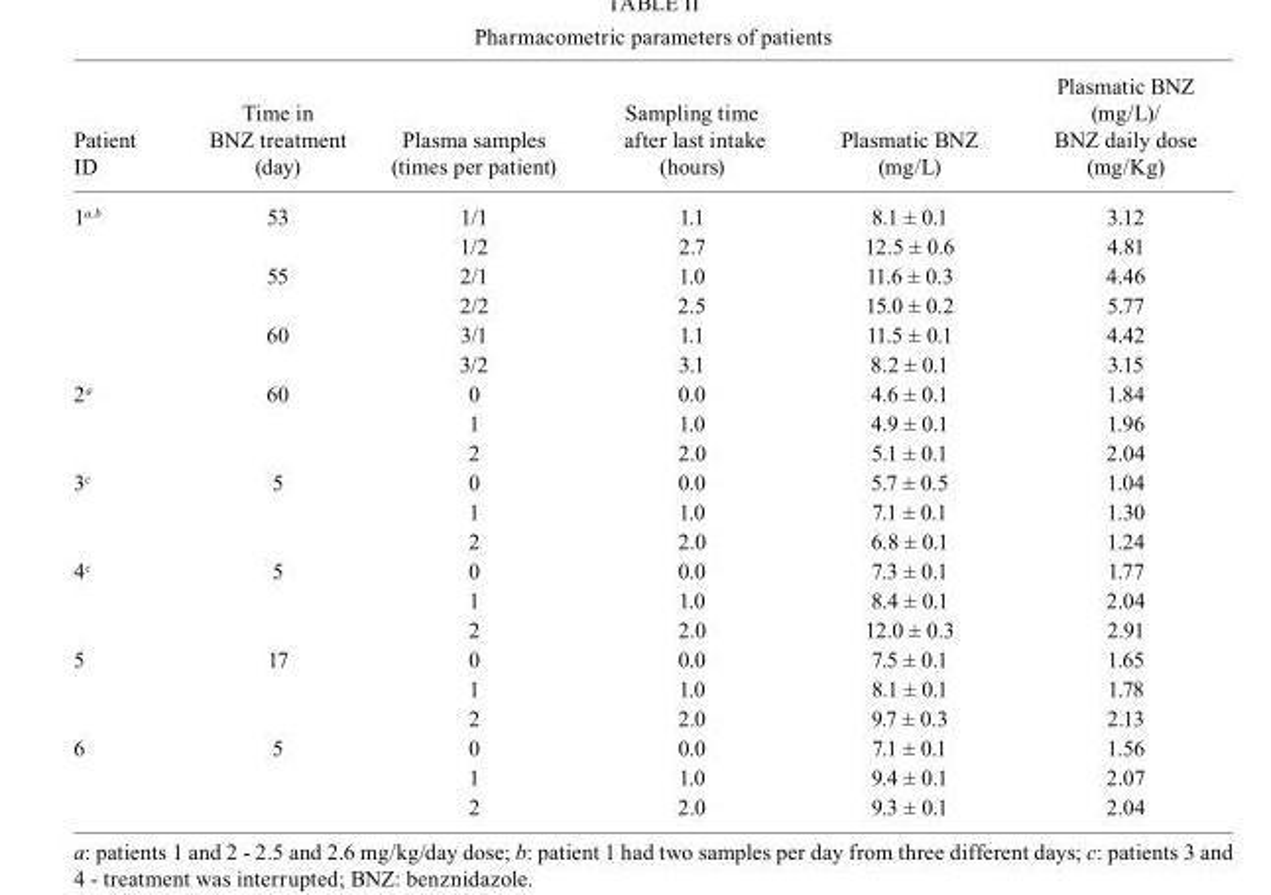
<table><thead><tr><td>Patient ID</td><td>Time in BNZ treatment (day)</td><td>Plasma samples (times per patient)</td><td>Sampling time after last intake (hours)</td><td>Plasmatic BNZ (mg/L)</td><td>Plasmatic BNZ (mg/L)/ BNZ daily dose (mg/Kg)</td></tr></thead><tbody><tr><td rowspan="6">1<sup>a,b</sup></td><td rowspan="2">53</td><td>1/1</td><td>1.1</td><td>8.1 ± 0.1</td><td>3.12</td></tr><tr><td>1/2</td><td>2.7</td><td>12.5 ± 0.6</td><td>4.81</td></tr><tr><td rowspan="2">55</td><td>2/1</td><td>1.0</td><td>11.6 ± 0.3</td><td>4.46</td></tr><tr><td>2/2</td><td>2.5</td><td>15.0 ± 0.2</td><td>5.77</td></tr><tr><td rowspan="2">60</td><td>3/1</td><td>1.1</td><td>11.5 ± 0.1</td><td>4.42</td></tr><tr><td>3/2</td><td>3.1</td><td>8.2 ± 0.1</td><td>3.15</td></tr><tr><td rowspan="3">2<sup>a</sup></td><td rowspan="3">60</td><td>0</td><td>0.0</td><td>4.6 ± 0.1</td><td>1.84</td></tr><tr><td>1</td><td>1.0</td><td>4.9 ± 0.1</td><td>1.96</td></tr><tr><td>2</td><td>2.0</td><td>5.1 ± 0.1</td><td>2.04</td></tr><tr><td rowspan="3">3<sup>c</sup></td><td rowspan="3">5</td><td>0</td><td>0.0</td><td>5.7 ± 0.5</td><td>1.04</td></tr><tr><td>1</td><td>1.0</td><td>7.1 ± 0.1</td><td>1.30</td></tr><tr><td>2</td><td>2.0</td><td>6.8 ± 0.1</td><td>1.24</td></tr><tr><td rowspan="3">4<sup>c</sup></td><td rowspan="3">5</td><td>0</td><td>0.0</td><td>7.3 ± 0.1</td><td>1.77</td></tr><tr><td>1</td><td>1.0</td><td>8.4 ± 0.1</td><td>2.04</td></tr><tr><td>2</td><td>2.0</td><td>12.0 ± 0.3</td><td>2.91</td></tr><tr><td rowspan="3">5</td><td rowspan="3">17</td><td>0</td><td>0.0</td><td>7.5 ± 0.1</td><td>1.65</td></tr><tr><td>1</td><td>1.0</td><td>8.1 ± 0.1</td><td>1.78</td></tr><tr><td>2</td><td>2.0</td><td>9.7 ± 0.3</td><td>2.13</td></tr><tr><td rowspan="3">6</td><td rowspan="3">5</td><td>0</td><td>0.0</td><td>7.1 ± 0.1</td><td>1.56</td></tr><tr><td>1</td><td>1.0</td><td>9.4 ± 0.1</td><td>2.07</td></tr><tr><td>2</td><td>2.0</td><td>9.3 ± 0.1</td><td>2.04</td></tr></tbody></table>